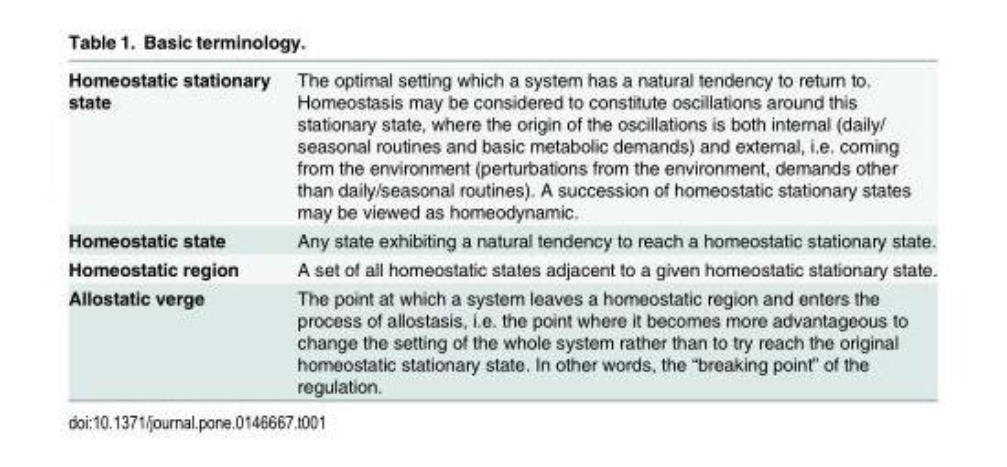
<table><tbody><tr><td>Homeostatic stationary state</td><td>The optimal setting which a system has a natural tendency to return to. Homeostasis may be considered to constitute oscillations around this stationary state, where the origin of the oscillations is both internal (daily/ seasonal routines and basic metabolic demands) and external, i.e. coming from the environment (perturbations from the environment, demands other than daily/seasonal routines). A succession of homeostatic stationary states may be viewed as homeodynamic.</td></tr><tr><td>Homeostatic state</td><td>Any state exhibiting a natural tendency to reach a homeostatic stationary state.</td></tr><tr><td>Homeostatic region</td><td>A set of all homeostatic states adjacent to a given homeostatic stationary state.</td></tr><tr><td>Allostatic verge</td><td>The point at which a system leaves a homeostatic region and enters the process of allostasis, i.e. the point where it becomes more advantageous to change the setting of the whole system rather than to try reach the original homeostatic stationary state. In other words, the “breaking point” of the regulation.</td></tr></tbody></table>